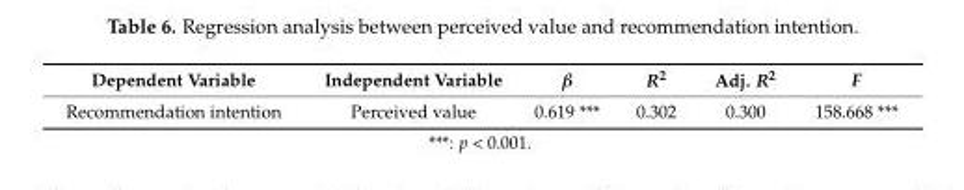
<table><thead><tr><td>Dependent Variable</td><td>Independent Variable</td><td>β</td><td>R<sup>2</sup></td><td>Adj. R<sup>2</sup></td><td>F</td></tr></thead><tbody><tr><td>Recommendation intention</td><td>Perceived value</td><td>0.619 ***</td><td>0.302</td><td>0.300</td><td>158.668 ***</td></tr></tbody></table>